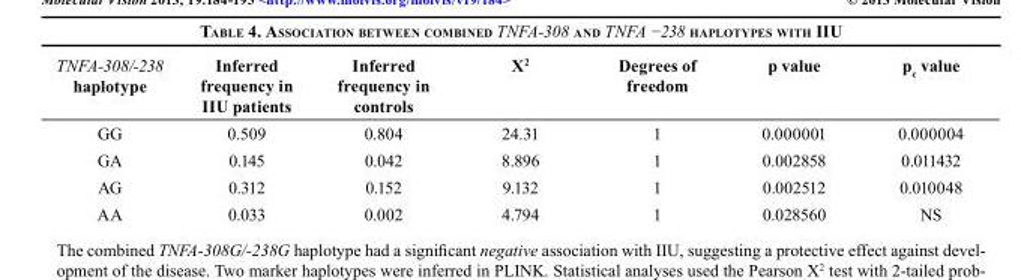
<table><thead><tr><td>TNFA-308/-238 haplotype</td><td>Inferred frequency in IIU patients</td><td>Inferred frequency in controls</td><td>X<sup>2</sup></td><td>Degrees of freedom</td><td>p value</td><td>p<sub>c</sub> value</td></tr></thead><tbody><tr><td>GG</td><td>0.509</td><td>0.804</td><td>24.31</td><td>1</td><td>0.000001</td><td>0.000004</td></tr><tr><td>GA</td><td>0.145</td><td>0.042</td><td>8.896</td><td>1</td><td>0.002858</td><td>0.011432</td></tr><tr><td>AG</td><td>0.312</td><td>0.152</td><td>9.132</td><td>1</td><td>0.002512</td><td>0.010048</td></tr><tr><td>AA</td><td>0.033</td><td>0.002</td><td>4.794</td><td>1</td><td>0.028560</td><td>NS</td></tr></tbody></table>